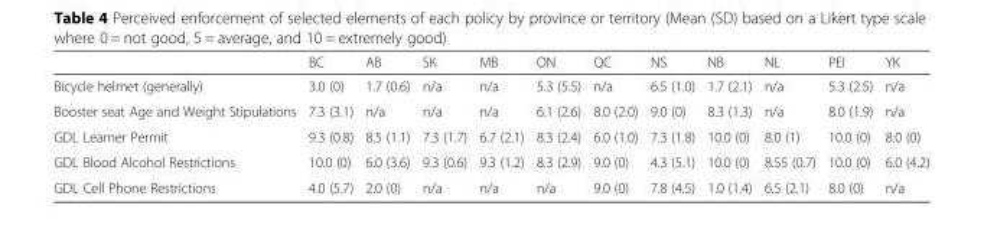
<table><thead><tr><td></td><td>BC</td><td>AB</td><td>SK</td><td>MB</td><td>ON</td><td>QC</td><td>NS</td><td>NB</td><td>NL</td><td>PEI</td><td>YK</td></tr></thead><tbody><tr><td>Bicycle helmet (generally)</td><td>3.0 (0)</td><td>1.7 (0.6)</td><td>n/a</td><td>n/a</td><td>5.3 (5.5)</td><td>n/a</td><td>6.5 (1.0)</td><td>1.7 (2.1)</td><td>n/a</td><td>5.3 (2.5)</td><td>n/a</td></tr><tr><td>Booster seat Age and Weight Stipulations</td><td>7.3 (3.1)</td><td>n/a</td><td>n/a</td><td>n/a</td><td>6.1 (2.6)</td><td>8.0 (2.0)</td><td>9.0 (0)</td><td>8.3 (1.3)</td><td>n/a</td><td>8.0 (1.9)</td><td>n/a</td></tr><tr><td>GDL Learner Permit</td><td>9.3 (0.8)</td><td>8.5 (1.1)</td><td>7.3 (1.7)</td><td>6.7 (2.1)</td><td>8.3 (2.4)</td><td>6.0 (1.0)</td><td>7.3 (1.8)</td><td>10.0 (0)</td><td>8.0 (1)</td><td>10.0 (0)</td><td>8.0 (0)</td></tr><tr><td>GDL Blood Alcohol Restrictions</td><td>10.0 (0)</td><td>6.0 (3.6)</td><td>9.3 (0.6)</td><td>9.3 (1.2)</td><td>8.3 (2.9)</td><td>9.0 (0)</td><td>4.3 (5.1)</td><td>10.0 (0)</td><td>8.55 (0.7)</td><td>10.0 (0)</td><td>6.0 (4.2)</td></tr><tr><td>GDL Cell Phone Restrictions</td><td>4.0 (5.7)</td><td>2.0 (0)</td><td>n/a</td><td>n/a</td><td>n/a</td><td>9.0 (0)</td><td>7.8 (4.5)</td><td>1.0 (1.4)</td><td>6.5 (2.1)</td><td>8.0 (0)</td><td>n/a</td></tr></tbody></table>